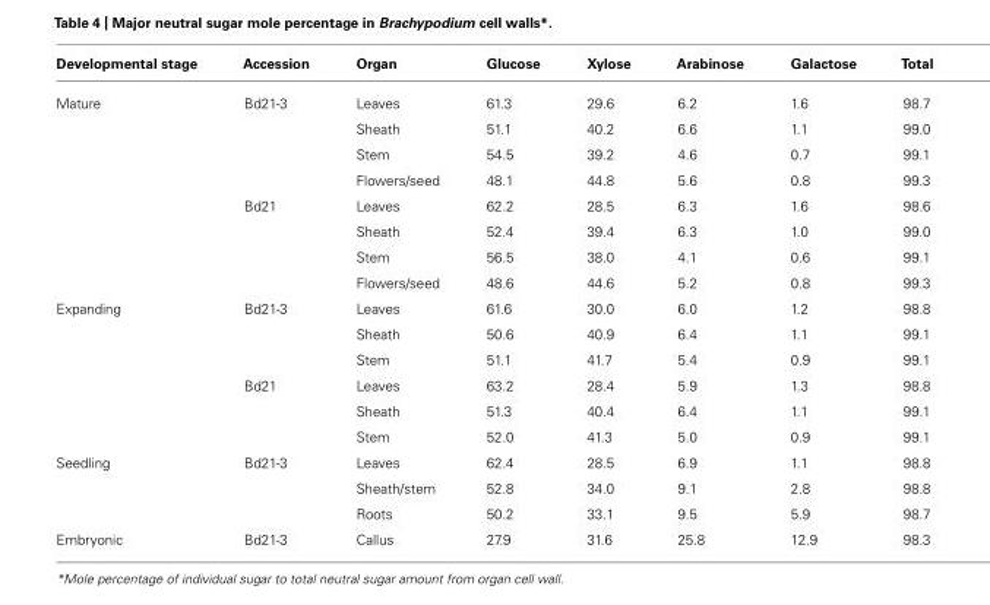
<table><thead><tr><td>Developmental stage</td><td>Accession</td><td>Organ</td><td>Glucose</td><td>Xylose</td><td>Arabinose</td><td>Galactose</td><td>Total</td></tr></thead><tbody><tr><td rowspan="8">Mature</td><td>Bd21-3</td><td>Leaves</td><td>61.3</td><td>29.6</td><td>6.2</td><td>1.6</td><td>98.7</td></tr><tr><td></td><td>Sheath</td><td>51.1</td><td>40.2</td><td>6.6</td><td>1.1</td><td>99.0</td></tr><tr><td></td><td>Stem</td><td>54.5</td><td>39.2</td><td>4.6</td><td>0.7</td><td>99.1</td></tr><tr><td></td><td>Flowers/seed</td><td>48.1</td><td>44.8</td><td>5.6</td><td>0.8</td><td>99.3</td></tr><tr><td>Bd21</td><td>Leaves</td><td>62.2</td><td>28.5</td><td>6.3</td><td>1.6</td><td>98.6</td></tr><tr><td></td><td>Sheath</td><td>52.4</td><td>39.4</td><td>6.3</td><td>1.0</td><td>99.0</td></tr><tr><td></td><td>Stem</td><td>56.5</td><td>38.0</td><td>4.1</td><td>0.6</td><td>99.1</td></tr><tr><td></td><td>Flowers/seed</td><td>48.6</td><td>44.6</td><td>5.2</td><td>0.8</td><td>99.3</td></tr><tr><td rowspan="6">Expanding</td><td>Bd21-3</td><td>Leaves</td><td>61.6</td><td>30.0</td><td>6.0</td><td>1.2</td><td>98.8</td></tr><tr><td></td><td>Sheath</td><td>50.6</td><td>40.9</td><td>6.4</td><td>1.1</td><td>99.1</td></tr><tr><td></td><td>Stem</td><td>51.1</td><td>41.7</td><td>5.4</td><td>0.9</td><td>99.1</td></tr><tr><td>Bd21</td><td>Leaves</td><td>63.2</td><td>28.4</td><td>5.9</td><td>1.3</td><td>98.8</td></tr><tr><td></td><td>Sheath</td><td>51.3</td><td>40.4</td><td>6.4</td><td>1.1</td><td>99.1</td></tr><tr><td></td><td>Stem</td><td>52.0</td><td>41.3</td><td>5.0</td><td>0.9</td><td>99.1</td></tr><tr><td rowspan="3">Seedling</td><td>Bd21-3</td><td>Leaves</td><td>62.4</td><td>28.5</td><td>6.9</td><td>1.1</td><td>98.8</td></tr><tr><td></td><td>Sheath/stem</td><td>52.8</td><td>34.0</td><td>9.1</td><td>2.8</td><td>98.8</td></tr><tr><td></td><td>Roots</td><td>50.2</td><td>33.1</td><td>9.5</td><td>5.9</td><td>98.7</td></tr><tr><td>Embryonic</td><td>Bd21-3</td><td>Callus</td><td>27.9</td><td>31.6</td><td>25.8</td><td>12.9</td><td>98.3</td></tr></tbody></table>